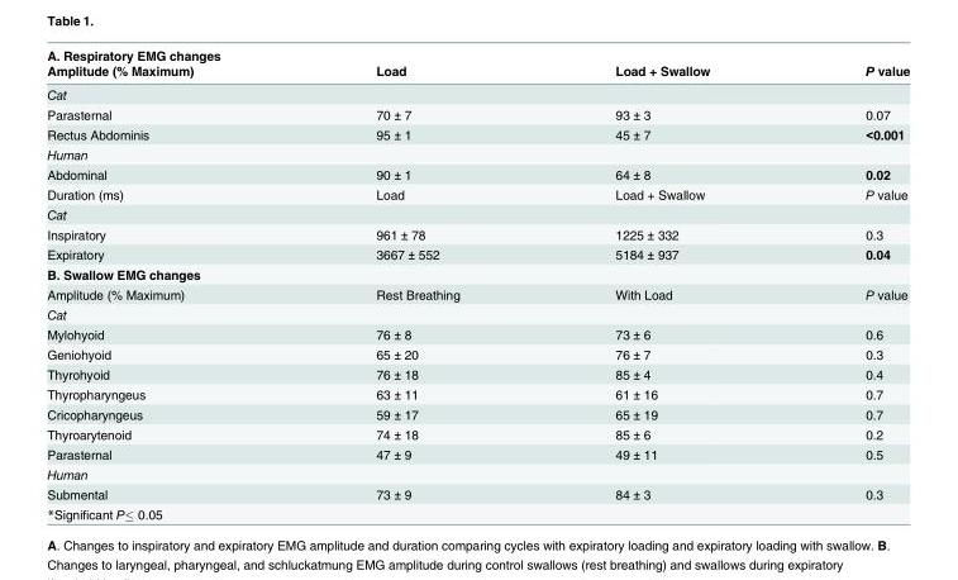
<table><thead><tr><td rowspan="2">A. Respiratory EMG changes Amplitude (% Maximum)</td><td rowspan="2">Load</td><td rowspan="2">Load + Swallow</td><td rowspan="2">P value</td></tr><tr></tr></thead><tbody><tr><td colspan="4">Cat</td></tr><tr><td>Parasternal</td><td>70 ± 7</td><td>93 ± 3</td><td>0.07</td></tr><tr><td>Rectus Abdominis</td><td>95 ± 1</td><td>45 ± 7</td><td>&lt;0.001</td></tr><tr><td colspan="4">Human</td></tr><tr><td>Abdominal</td><td>90 ± 1</td><td>64 ± 8</td><td>0.02</td></tr><tr><td>Duration (ms)</td><td>Load</td><td>Load + Swallow</td><td>P value</td></tr><tr><td colspan="4">Cat</td></tr><tr><td>Inspiratory</td><td>961 ± 78</td><td>1225 ± 332</td><td>0.3</td></tr><tr><td>Expiratory</td><td>3667 ± 552</td><td>5184 ± 937</td><td>0.04</td></tr><tr><td colspan="4">B. Swallow EMG changes</td></tr><tr><td>Amplitude (% Maximum)</td><td>Rest Breathing</td><td>With Load</td><td>P value</td></tr><tr><td colspan="4">Cat</td></tr><tr><td>Mylohyoid</td><td>76 ± 8</td><td>73 ± 6</td><td>0.6</td></tr><tr><td>Geniohyoid</td><td>65 ± 20</td><td>76 ± 7</td><td>0.3</td></tr><tr><td>Thyrohyoid</td><td>76 ± 18</td><td>85 ± 4</td><td>0.4</td></tr><tr><td>Thyropharyngeus</td><td>63 ± 11</td><td>61 ± 16</td><td>0.7</td></tr><tr><td>Cricopharyngeus</td><td>59 ± 17</td><td>65 ± 19</td><td>0.7</td></tr><tr><td>Thyroarytenoid</td><td>74 ± 18</td><td>85 ± 6</td><td>0.2</td></tr><tr><td>Parasternal</td><td>47 ± 9</td><td>49 ± 11</td><td>0.5</td></tr><tr><td colspan="4">Human</td></tr><tr><td>Submental</td><td>73 ± 9</td><td>84 ± 3</td><td>0.3</td></tr><tr><td>*Significant P≤ 0.05</td><td></td><td></td><td></td></tr></tbody></table>